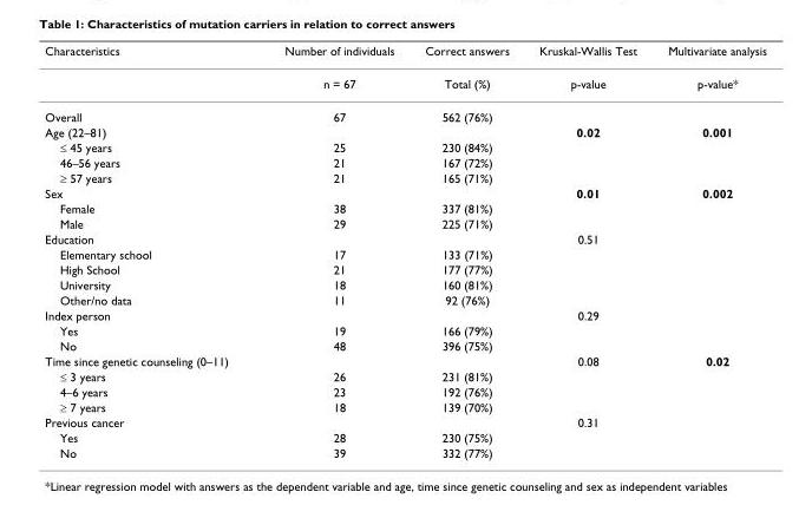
<table><thead><tr><td>Characteristics</td><td>Number of individuals</td><td>Correct answers</td><td>Kruskal-Wallis Test</td><td>Multivariate analysis</td></tr></thead><tbody><tr><td></td><td>n = 67</td><td>Total (%)</td><td>p-value</td><td>p-value*</td></tr><tr><td>Overall</td><td>67</td><td>562 (76%)</td><td></td><td></td></tr><tr><td>Age (22–81)</td><td></td><td></td><td>0.02</td><td>0.001</td></tr><tr><td>≤ 45 years</td><td>25</td><td>230 (84%)</td><td></td><td></td></tr><tr><td>46–56 years</td><td>21</td><td>167 (72%)</td><td></td><td></td></tr><tr><td>≥ 57 years</td><td>21</td><td>165 (71%)</td><td></td><td></td></tr><tr><td>Sex</td><td></td><td></td><td>0.01</td><td>0.002</td></tr><tr><td>Female</td><td>38</td><td>337 (81%)</td><td></td><td></td></tr><tr><td>Male</td><td>29</td><td>225 (71%)</td><td></td><td></td></tr><tr><td>Education</td><td></td><td></td><td>0.51</td><td></td></tr><tr><td>Elementary school</td><td>17</td><td>133 (71%)</td><td></td><td></td></tr><tr><td>High School</td><td>21</td><td>177 (77%)</td><td></td><td></td></tr><tr><td>University</td><td>18</td><td>160 (81%)</td><td></td><td></td></tr><tr><td>Other/no data</td><td>11</td><td>92 (76%)</td><td></td><td></td></tr><tr><td>Index person</td><td></td><td></td><td>0.29</td><td></td></tr><tr><td>Yes</td><td>19</td><td>166 (79%)</td><td></td><td></td></tr><tr><td>No</td><td>48</td><td>396 (75%)</td><td></td><td></td></tr><tr><td>Time since genetic counseling (0–11)</td><td></td><td></td><td>0.08</td><td>0.02</td></tr><tr><td>≤ 3 years</td><td>26</td><td>231 (81%)</td><td></td><td></td></tr><tr><td>4–6 years</td><td>23</td><td>192 (76%)</td><td></td><td></td></tr><tr><td>≥ 7 years</td><td>18</td><td>139 (70%)</td><td></td><td></td></tr><tr><td>Previous cancer</td><td></td><td></td><td>0.31</td><td></td></tr><tr><td>Yes</td><td>28</td><td>230 (75%)</td><td></td><td></td></tr><tr><td>No</td><td>39</td><td>332 (77%)</td><td></td><td></td></tr></tbody></table>